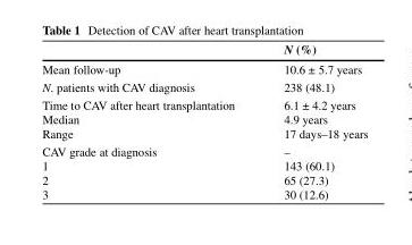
<table><thead><tr><td></td><td>N (%)</td></tr></thead><tbody><tr><td>Mean follow-up</td><td>10.6 ± 5.7 years</td></tr><tr><td>N. patients with CAV diagnosis</td><td>238 (48.1)</td></tr><tr><td>Time to CAV after heart transplantation Median Range</td><td>6.1 ± 4.2 years 4.9 years 17 days–18 years</td></tr><tr><td>CAV grade at diagnosis 1 2 3</td><td>– 143 (60.1) 65 (27.3) 30 (12.6)</td></tr></tbody></table>